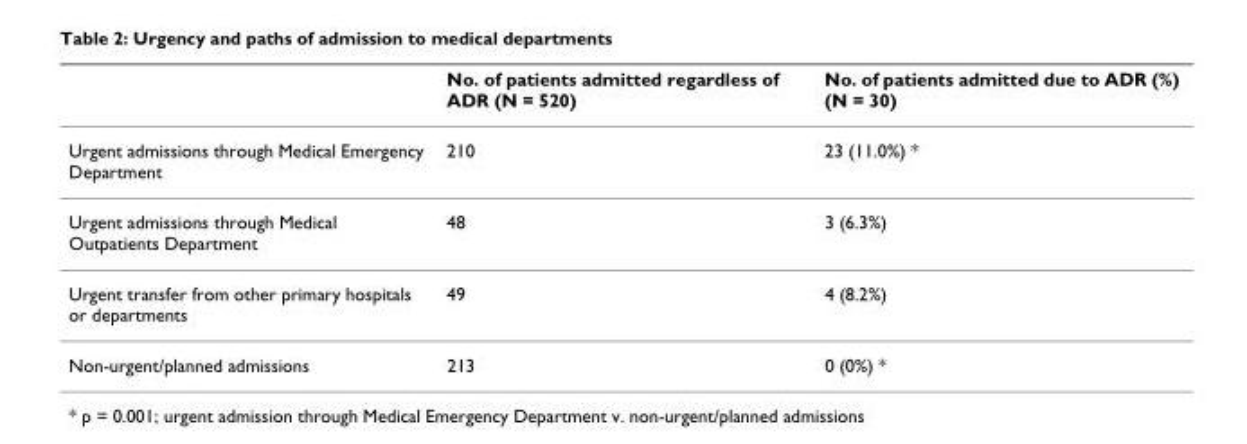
<table><thead><tr><td></td><td>No. of patients admitted regardless of ADR (N = 520)</td><td>No. of patients admitted due to ADR (%) (N = 30)</td></tr></thead><tbody><tr><td>Urgent admissions through Medical Emergency Department</td><td>210</td><td>23 (11.0%) *</td></tr><tr><td>Urgent admissions through Medical Outpatients Department</td><td>48</td><td>3 (6.3%)</td></tr><tr><td>Urgent transfer from other primary hospitals or departments</td><td>49</td><td>4 (8.2%)</td></tr><tr><td>Non-urgent/planned admissions</td><td>213</td><td>0 (0%) *</td></tr></tbody></table>